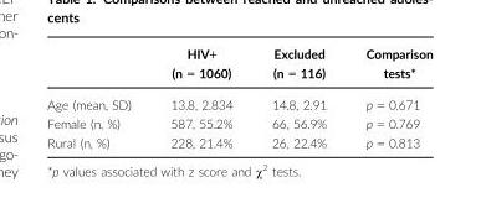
<table><thead><tr><td></td><td>HIV+ (n = 1060)</td><td>Excluded (n = 116)</td><td>Comparison tests*</td></tr></thead><tbody><tr><td>Age (mean, SD)</td><td>13.8, 2.834</td><td>14.8, 2.91</td><td>p = 0.671</td></tr><tr><td>Female (n, %)</td><td>587, 55.2%</td><td>66, 56.9%</td><td>p = 0.769</td></tr><tr><td>Rural (n, %)</td><td>228, 21.4%</td><td>26, 22.4%</td><td>p = 0.813</td></tr></tbody></table>